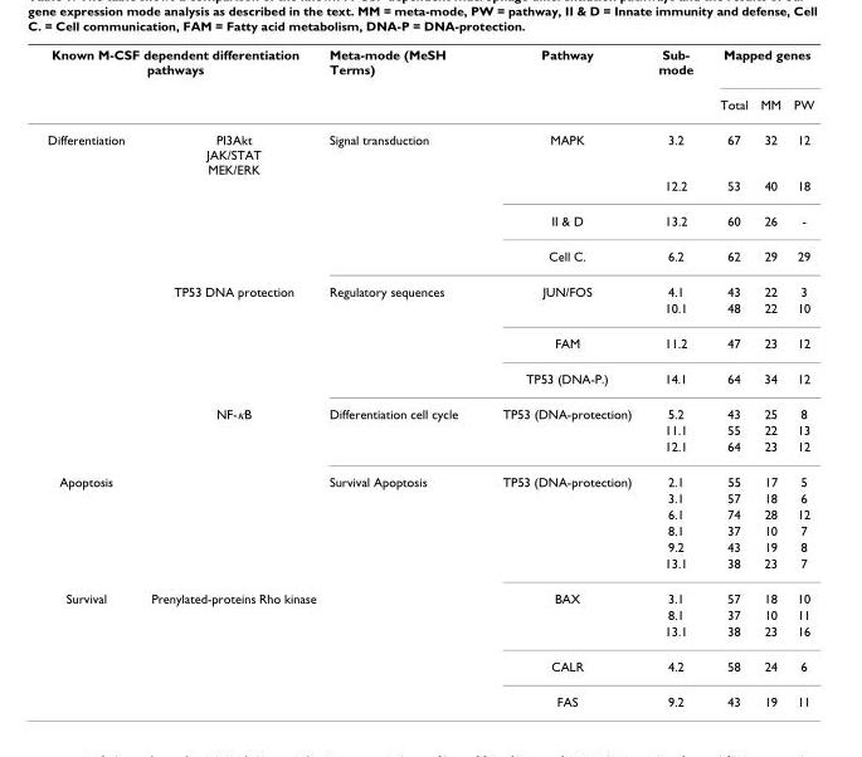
<table><thead><tr><td colspan="2">Known M-CSF dependent differentiation pathways</td><td rowspan="2">Meta-mode (MeSH Terms)</td><td rowspan="2">Pathway</td><td rowspan="2">Sub- mode</td><td colspan="3">Mapped genes</td></tr><tr><td></td><td></td><td>Total</td><td>MM</td><td>PW</td></tr></thead><tbody><tr><td rowspan="11">Differentiation</td><td>PI3Akt JAK/STAT MEK/ERK</td><td>Signal transduction</td><td>MAPK</td><td>3.2</td><td>67</td><td>32</td><td>12</td></tr><tr><td></td><td></td><td></td><td>12.2</td><td>53</td><td>40</td><td>18</td></tr><tr><td></td><td></td><td>II &amp; D</td><td>13.2</td><td>60</td><td>26</td><td>-</td></tr><tr><td></td><td></td><td>Cell C.</td><td>6.2</td><td>62</td><td>29</td><td>29</td></tr><tr><td>TP53 DNA protection</td><td>Regulatory sequences</td><td>JUN/FOS</td><td>4.1</td><td>43</td><td>22</td><td>3</td></tr><tr><td></td><td></td><td></td><td>10.1</td><td>48</td><td>22</td><td>10</td></tr><tr><td></td><td></td><td>FAM</td><td>11.2</td><td>47</td><td>23</td><td>12</td></tr><tr><td></td><td></td><td>TP53 (DNA-P.)</td><td>14.1</td><td>64</td><td>34</td><td>12</td></tr><tr><td>NF-κB</td><td>Differentiation cell cycle</td><td>TP53 (DNA-protection)</td><td>5.2</td><td>43</td><td>25</td><td>8</td></tr><tr><td></td><td></td><td></td><td>11.1</td><td>55</td><td>22</td><td>13</td></tr><tr><td></td><td></td><td></td><td>12.1</td><td>64</td><td>23</td><td>12</td></tr><tr><td rowspan="6">Apoptosis</td><td></td><td>Survival Apoptosis</td><td>TP53 (DNA-protection)</td><td>2.1</td><td>55</td><td>17</td><td>5</td></tr><tr><td></td><td></td><td></td><td>3.1</td><td>57</td><td>18</td><td>6</td></tr><tr><td></td><td></td><td></td><td>6.1</td><td>74</td><td>28</td><td>12</td></tr><tr><td></td><td></td><td></td><td>8.1</td><td>37</td><td>10</td><td>7</td></tr><tr><td></td><td></td><td></td><td>9.2</td><td>43</td><td>19</td><td>8</td></tr><tr><td></td><td></td><td></td><td>13.1</td><td>38</td><td>23</td><td>7</td></tr><tr><td rowspan="5">Survival</td><td>Prenylated-proteins Rho kinase</td><td></td><td>BAX</td><td>3.1</td><td>57</td><td>18</td><td>10</td></tr><tr><td></td><td></td><td></td><td>8.1</td><td>37</td><td>10</td><td>11</td></tr><tr><td></td><td></td><td></td><td>13.1</td><td>38</td><td>23</td><td>16</td></tr><tr><td></td><td></td><td>CALR</td><td>4.2</td><td>58</td><td>24</td><td>6</td></tr><tr><td></td><td></td><td>FAS</td><td>9.2</td><td>43</td><td>19</td><td>11</td></tr></tbody></table>